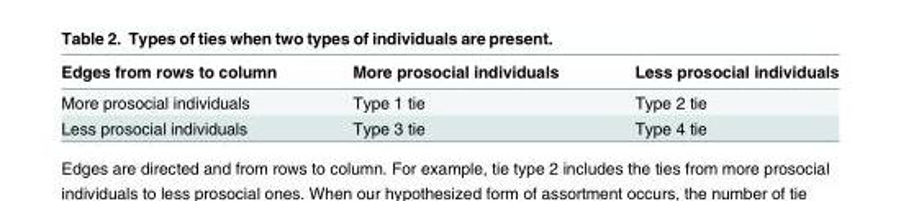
<table><thead><tr><td>Edges from rows to column</td><td>More prosocial individuals</td><td>Less prosocial individuals</td></tr></thead><tbody><tr><td>More prosocial individuals</td><td>Type 1 tie</td><td>Type 2 tie</td></tr><tr><td>Less prosocial individuals</td><td>Type 3 tie</td><td>Type 4 tie</td></tr></tbody></table>